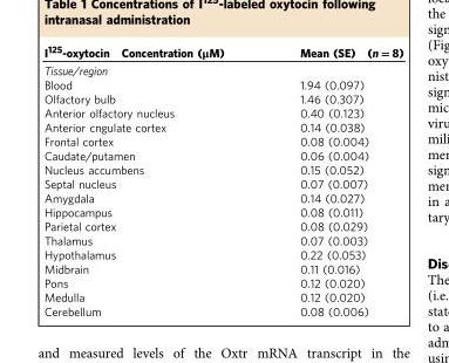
<table><thead><tr><td>I<sup>125</sup>-oxytocin Concentration (μM)</td><td>Mean (SE) (n = 8)</td></tr></thead><tbody><tr><td colspan="2">Tissue/region</td></tr><tr><td>Blood</td><td>1.94 (0.097)</td></tr><tr><td>Olfactory bulb</td><td>1.46 (0.307)</td></tr><tr><td>Anterior olfactory nucleus</td><td>0.40 (0.123)</td></tr><tr><td>Anterior cngulate cortex</td><td>0.14 (0.038)</td></tr><tr><td>Frontal cortex</td><td>0.08 (0.004)</td></tr><tr><td>Caudate/putamen</td><td>0.06 (0.004)</td></tr><tr><td>Nucleus accumbens</td><td>0.15 (0.052)</td></tr><tr><td>Septal nucleus</td><td>0.07 (0.007)</td></tr><tr><td>Amygdala</td><td>0.14 (0.027)</td></tr><tr><td>Hippocampus</td><td>0.08 (0.011)</td></tr><tr><td>Parietal cortex</td><td>0.08 (0.029)</td></tr><tr><td>Thalamus</td><td>0.07 (0.003)</td></tr><tr><td>Hypothalamus</td><td>0.22 (0.053)</td></tr><tr><td>Midbrain</td><td>0.11 (0.016)</td></tr><tr><td>Pons</td><td>0.12 (0.020)</td></tr><tr><td>Medulla</td><td>0.12 (0.020)</td></tr><tr><td>Cerebellum</td><td>0.08 (0.006)</td></tr></tbody></table>